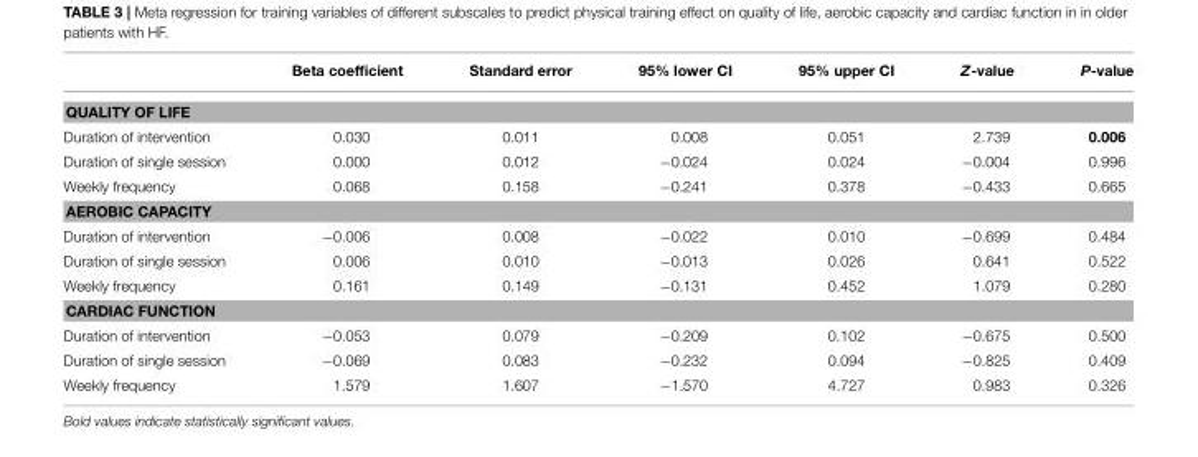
<table><thead><tr><td></td><td>Beta coefficient</td><td>Standard error</td><td>95% lower CI</td><td>95% upper CI</td><td>Z-value</td><td>P-value</td></tr></thead><tbody><tr><td colspan="7">QUALITY OF LIFE</td></tr><tr><td>Duration of intervention</td><td>0.030</td><td>0.011</td><td>0.008</td><td>0.051</td><td>2.739</td><td>0.006</td></tr><tr><td>Duration of single session</td><td>0.000</td><td>0.012</td><td>−0.024</td><td>0.024</td><td>−0.004</td><td>0.996</td></tr><tr><td>Weekly frequency</td><td>0.068</td><td>0.158</td><td>−0.241</td><td>0.378</td><td>−0.433</td><td>0.665</td></tr><tr><td colspan="7">AEROBIC CAPACITY</td></tr><tr><td>Duration of intervention</td><td>−0.006</td><td>0.008</td><td>−0.022</td><td>0.010</td><td>−0.699</td><td>0.484</td></tr><tr><td>Duration of single session</td><td>0.006</td><td>0.010</td><td>−0.013</td><td>0.026</td><td>0.641</td><td>0.522</td></tr><tr><td>Weekly frequency</td><td>0.161</td><td>0.149</td><td>−0.131</td><td>0.452</td><td>1.079</td><td>0.280</td></tr><tr><td colspan="7">CARDIAC FUNCTION</td></tr><tr><td>Duration of intervention</td><td>−0.053</td><td>0.079</td><td>−0.209</td><td>0.102</td><td>−0.675</td><td>0.500</td></tr><tr><td>Duration of single session</td><td>−0.069</td><td>0.083</td><td>−0.232</td><td>0.094</td><td>−0.825</td><td>0.409</td></tr><tr><td>Weekly frequency</td><td>1.579</td><td>1.607</td><td>−1.570</td><td>4.727</td><td>0.983</td><td>0.326</td></tr></tbody></table>